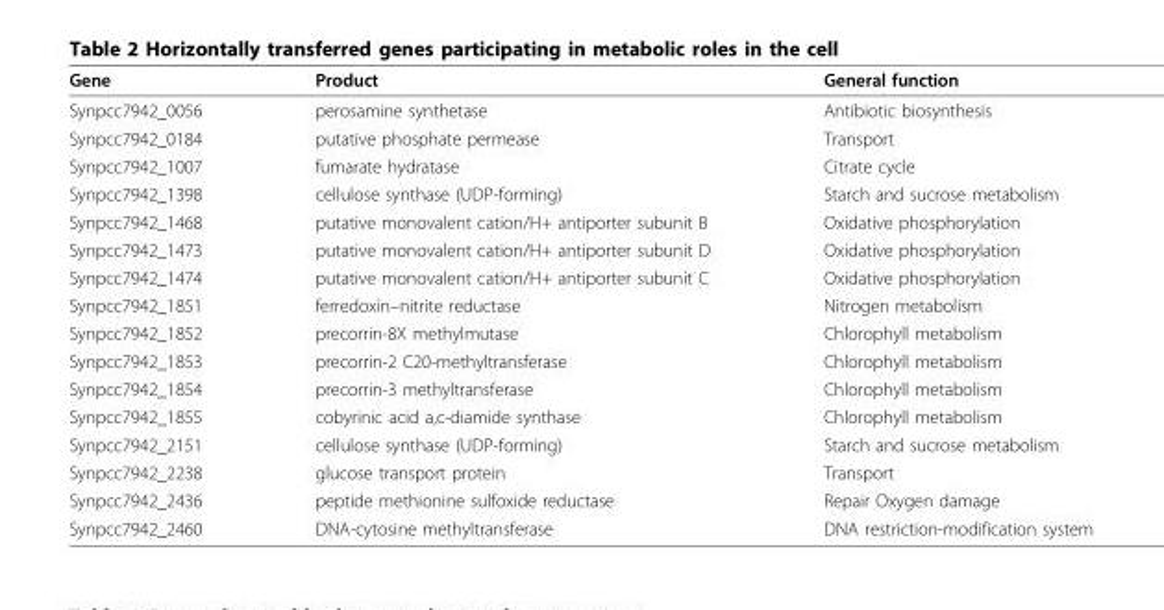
<table><thead><tr><td>Gene</td><td>Product</td><td>General function</td></tr></thead><tbody><tr><td>Synpcc7942_0056</td><td>perosamine synthetase</td><td>Antibiotic biosynthesis</td></tr><tr><td>Synpcc7942_0184</td><td>putative phosphate permease</td><td>Transport</td></tr><tr><td>Synpcc7942_1007</td><td>fumarate hydratase</td><td>Citrate cycle</td></tr><tr><td>Synpcc7942_1398</td><td>cellulose synthase (UDP-forming)</td><td>Starch and sucrose metabolism</td></tr><tr><td>Synpcc7942_1468</td><td>putative monovalent cation/H+ antiporter subunit B</td><td>Oxidative phosphorylation</td></tr><tr><td>Synpcc7942_1473</td><td>putative monovalent cation/H+ antiporter subunit D</td><td>Oxidative phosphorylation</td></tr><tr><td>Synpcc7942_1474</td><td>putative monovalent cation/H+ antiporter subunit C</td><td>Oxidative phosphorylation</td></tr><tr><td>Synpcc7942_1851</td><td>ferredoxin–nitrite reductase</td><td>Nitrogen metabolism</td></tr><tr><td>Synpcc7942_1852</td><td>precorrin-8X methylmutase</td><td>Chlorophyll metabolism</td></tr><tr><td>Synpcc7942_1853</td><td>precorrin-2 C20-methyltransferase</td><td>Chlorophyll metabolism</td></tr><tr><td>Synpcc7942_1854</td><td>precorrin-3 methyltransferase</td><td>Chlorophyll metabolism</td></tr><tr><td>Synpcc7942_1855</td><td>cobyrinic acid a,c-diamide synthase</td><td>Chlorophyll metabolism</td></tr><tr><td>Synpcc7942_2151</td><td>cellulose synthase (UDP-forming)</td><td>Starch and sucrose metabolism</td></tr><tr><td>Synpcc7942_2238</td><td>glucose transport protein</td><td>Transport</td></tr><tr><td>Synpcc7942_2436</td><td>peptide methionine sulfoxide reductase</td><td>Repair Oxygen damage</td></tr><tr><td>Synpcc7942_2460</td><td>DNA-cytosine methyltransferase</td><td>DNA restriction-modification system</td></tr></tbody></table>